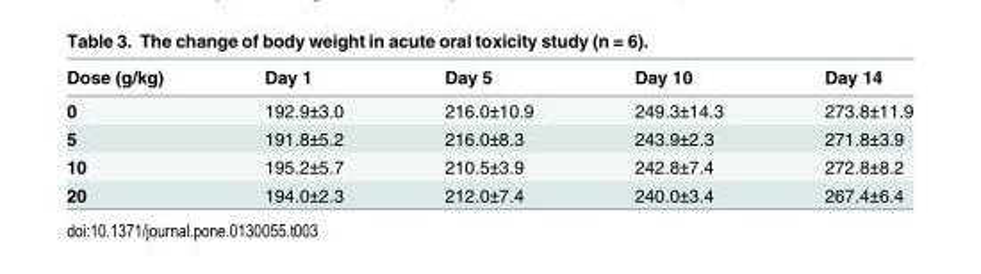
<table><thead><tr><td>Dose (g/kg)</td><td>Day 1</td><td>Day 5</td><td>Day 10</td><td>Day 14</td></tr></thead><tbody><tr><td>0</td><td>192.9±3.0</td><td>216.0±10.9</td><td>249.3±14.3</td><td>273.8±11.9</td></tr><tr><td>5</td><td>191.8±5.2</td><td>216.0±8.3</td><td>243.9±2.3</td><td>271.8±3.9</td></tr><tr><td>10</td><td>195.2±5.7</td><td>210.5±3.9</td><td>242.8±7.4</td><td>272.8±8.2</td></tr><tr><td>20</td><td>194.0±2.3</td><td>212.0±7.4</td><td>240.0±3.4</td><td>267.4±6.4</td></tr></tbody></table>